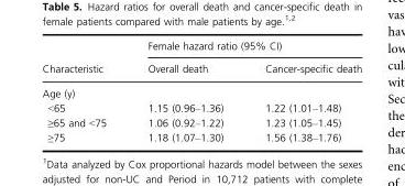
<table><thead><tr><td rowspan="2">Characteristic</td><td colspan="2">Female hazard ratio (95% CI)</td></tr><tr><td>Overall death</td><td>Cancer-specific death</td></tr></thead><tbody><tr><td colspan="3">Age (y)</td></tr><tr><td>&lt;65</td><td>1.15 (0.96–1.36)</td><td>1.22 (1.01–1.48)</td></tr><tr><td>≥65 and &lt;75</td><td>1.06 (0.92–1.22)</td><td>1.23 (1.05–1.45)</td></tr><tr><td>≥75</td><td>1.18 (1.07–1.30)</td><td>1.56 (1.38–1.76)</td></tr></tbody></table>